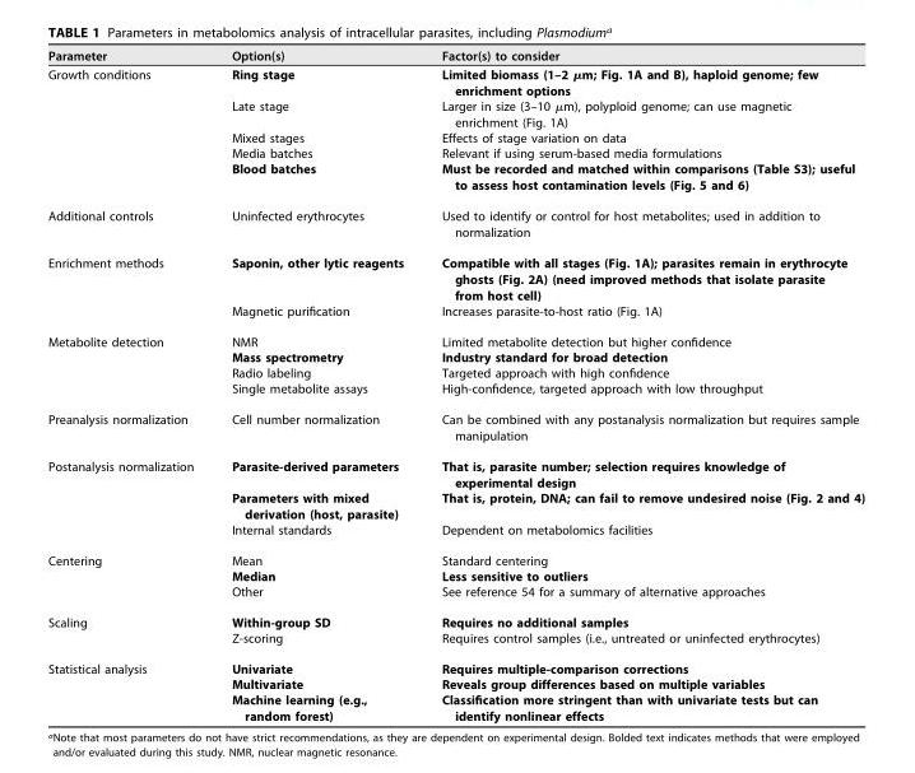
<table><thead><tr><td>Parameter</td><td>Option(s)</td><td>Factor(s) to consider</td></tr></thead><tbody><tr><td rowspan="5">Growth conditions</td><td>Ring stage</td><td>Limited biomass (1–2 µm; Fig. 1A and B), haploid genome; few enrichment options</td></tr><tr><td>Late stage</td><td>Larger in size (3–10 µm), polyploid genome; can use magnetic enrichment (Fig. 1A)</td></tr><tr><td>Mixed stages</td><td>Effects of stage variation on data</td></tr><tr><td>Media batches</td><td>Relevant if using serum-based media formulations</td></tr><tr><td>Blood batches</td><td>Must be recorded and matched within comparisons (Table S3); useful to assess host contamination levels (Fig. 5 and 6)</td></tr><tr><td>Additional controls</td><td>Uninfected erythrocytes</td><td>Used to identify or control for host metabolites; used in addition to normalization</td></tr><tr><td rowspan="2">Enrichment methods</td><td>Saponin, other lytic reagents</td><td>Compatible with all stages (Fig. 1A); parasites remain in erythrocyte ghosts (Fig. 2A) (need improved methods that isolate parasite from host cell)</td></tr><tr><td>Magnetic purification</td><td>Increases parasite-to-host ratio (Fig. 1A)</td></tr><tr><td rowspan="4">Metabolite detection</td><td>NMR</td><td>Limited metabolite detection but higher confidence</td></tr><tr><td>Mass spectrometry</td><td>Industry standard for broad detection</td></tr><tr><td>Radio labeling</td><td>Targeted approach with high confidence</td></tr><tr><td>Single metabolite assays</td><td>High-confidence, targeted approach with low throughput</td></tr><tr><td>Preanalysis normalization</td><td>Cell number normalization</td><td>Can be combined with any postanalysis normalization but requires sample manipulation</td></tr><tr><td rowspan="3">Postanalysis normalization</td><td>Parasite-derived parameters</td><td>That is, parasite number; selection requires knowledge of experimental design</td></tr><tr><td>Parameters with mixed derivation (host, parasite)</td><td>That is, protein, DNA; can fail to remove undesired noise (Fig. 2 and 4)</td></tr><tr><td>Internal standards</td><td>Dependent on metabolomics facilities</td></tr><tr><td rowspan="3">Centering</td><td>Mean</td><td>Standard centering</td></tr><tr><td>Median</td><td>Less sensitive to outliers</td></tr><tr><td>Other</td><td>See reference 54 for a summary of alternative approaches</td></tr><tr><td rowspan="2">Scaling</td><td>Within-group SD</td><td>Requires no additional samples</td></tr><tr><td>Z-scoring</td><td>Requires control samples (i.e., untreated or uninfected erythrocytes)</td></tr><tr><td rowspan="3">Statistical analysis</td><td>Univariate</td><td>Requires multiple-comparison corrections</td></tr><tr><td>Multivariate</td><td>Reveals group differences based on multiple variables</td></tr><tr><td>Machine learning (e.g., random forest)</td><td>Classification more stringent than with univariate tests but can identify nonlinear effects</td></tr></tbody></table>